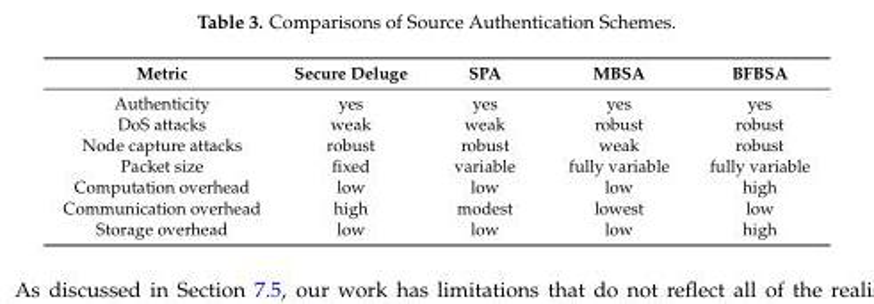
<table><thead><tr><td>Metric</td><td>Secure Deluge</td><td>SPA</td><td>MBSA</td><td>BFBSA</td></tr></thead><tbody><tr><td>Authenticity</td><td>yes</td><td>yes</td><td>yes</td><td>yes</td></tr><tr><td>DoS attacks</td><td>weak</td><td>weak</td><td>robust</td><td>robust</td></tr><tr><td>Node capture attacks</td><td>robust</td><td>robust</td><td>weak</td><td>robust</td></tr><tr><td>Packet size</td><td>fixed</td><td>variable</td><td>fully variable</td><td>fully variable</td></tr><tr><td>Computation overhead</td><td>low</td><td>low</td><td>low</td><td>high</td></tr><tr><td>Communication overhead</td><td>high</td><td>modest</td><td>lowest</td><td>low</td></tr><tr><td>Storage overhead</td><td>low</td><td>low</td><td>low</td><td>high</td></tr></tbody></table>